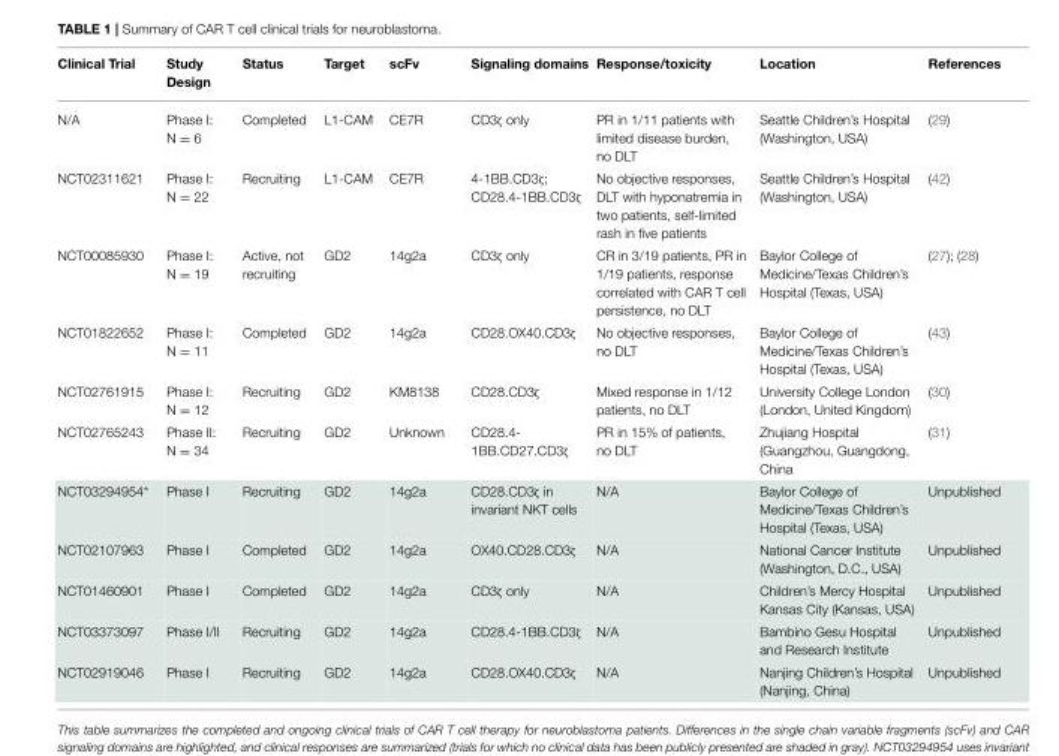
<table><thead><tr><td>Clinical Trial</td><td>Study Design</td><td>Status</td><td>Target</td><td>scFv</td><td>Signaling domains</td><td>Response/toxicity</td><td>Location</td><td>References</td></tr></thead><tbody><tr><td>N/A</td><td>Phase I: N = 6</td><td>Completed</td><td>L1-CAM</td><td>CE7R</td><td>CD3ζ only</td><td>PR in 1/11 patients with limited disease burden, no DLT</td><td>Seattle Children’s Hospital (Washington, USA)</td><td>(29)</td></tr><tr><td>NCT02311621</td><td>Phase I: N = 22</td><td>Recruiting</td><td>L1-CAM</td><td>CE7R</td><td>4-1BB.CD3ζ; CD28.4-1BB.CD3ζ</td><td>No objective responses, DLT with hyponatremia in two patients, self-limited rash in five patients</td><td>Seattle Children’s Hospital (Washington, USA)</td><td>(42)</td></tr><tr><td>NCT00085930</td><td>Phase I: N = 19</td><td>Active, not recruiting</td><td>GD2</td><td>14g2a</td><td>CD3ζ only</td><td>CR in 3/19 patients, PR in 1/19 patients, response correlated with CAR T cell persistence, no DLT</td><td>Baylor College of Medicine/Texas Children’s Hospital (Texas, USA)</td><td>(27); (28)</td></tr><tr><td>NCT01822652</td><td>Phase I: N = 11</td><td>Completed</td><td>GD2</td><td>14g2a</td><td>CD28.OX40.CD3ζ</td><td>No objective responses, no DLT</td><td>Baylor College of Medicine/Texas Children’s Hospital (Texas, USA)</td><td>(43)</td></tr><tr><td>NCT02761915</td><td>Phase I: N = 12</td><td>Recruiting</td><td>GD2</td><td>KM8138</td><td>CD28.CD3ζ</td><td>Mixed response in 1/12 patients, no DLT</td><td>University College London (London, United Kingdom)</td><td>(30)</td></tr><tr><td>NCT02765243</td><td>Phase II: N = 34</td><td>Recruiting</td><td>GD2</td><td>Unknown</td><td>CD28.4- 1BB.CD27.CD3ζ</td><td>PR in 15% of patients, no DLT</td><td>Zhujiang Hospital (Guangzhou, Guangdong, China</td><td>(31)</td></tr><tr><td>NCT03294954*</td><td>Phase I</td><td>Recruiting</td><td>GD2</td><td>14g2a</td><td>CD28.CD3ζ in invariant NKT cells</td><td>N/A</td><td>Baylor College of Medicine/Texas Children’s Hospital (Texas, USA)</td><td>Unpublished</td></tr><tr><td>NCT02107963</td><td>Phase I</td><td>Completed</td><td>GD2</td><td>14g2a</td><td>OX40.CD28.CD3ζ</td><td>N/A</td><td>National Cancer Institute (Washington, D.C., USA)</td><td>Unpublished</td></tr><tr><td>NCT01460901</td><td>Phase I</td><td>Completed</td><td>GD2</td><td>14g2a</td><td>CD3ζ only</td><td>N/A</td><td>Children’s Mercy Hospital Kansas City (Kansas, USA)</td><td>Unpublished</td></tr><tr><td>NCT03373097</td><td>Phase I/II</td><td>Recruiting</td><td>GD2</td><td>14g2a</td><td>CD28.4-1BB.CD3ζ</td><td>N/A</td><td>Bambino Gesu Hospital and Research Institute</td><td>Unpublished</td></tr><tr><td>NCT02919046</td><td>Phase I</td><td>Recruiting</td><td>GD2</td><td>14g2a</td><td>CD28.OX40.CD3ζ</td><td>N/A</td><td>Nanjing Children’s Hospital (Nanjing, China)</td><td>Unpublished</td></tr></tbody></table>